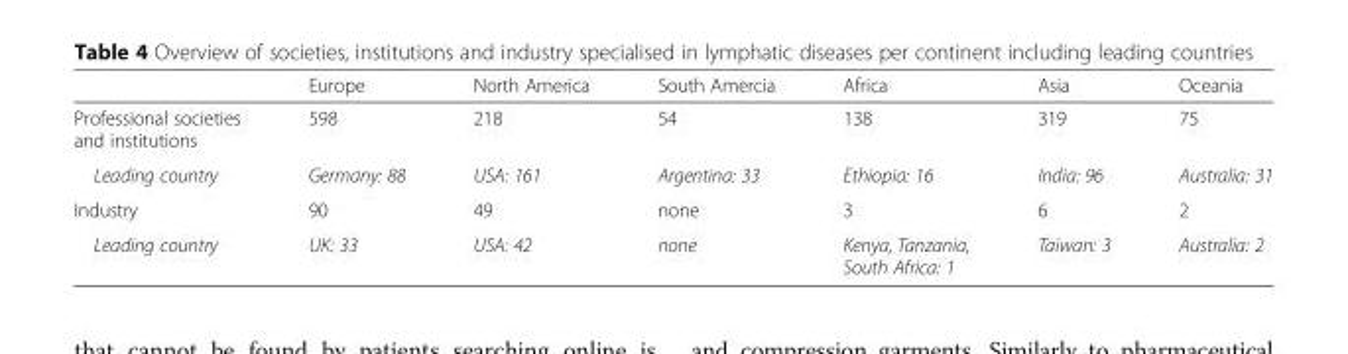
<table><thead><tr><td></td><td>Europe</td><td>North America</td><td>South Amercia</td><td>Africa</td><td>Asia</td><td>Oceania</td></tr></thead><tbody><tr><td>Professional societies and institutions</td><td>598</td><td>218</td><td>54</td><td>138</td><td>319</td><td>75</td></tr><tr><td>Leading country</td><td>Germany: 88</td><td>USA: 161</td><td>Argentina: 33</td><td>Ethiopia: 16</td><td>India: 96</td><td>Australia: 31</td></tr><tr><td>Industry</td><td>90</td><td>49</td><td>none</td><td>3</td><td>6</td><td>2</td></tr><tr><td>Leading country</td><td>UK: 33</td><td>USA: 42</td><td>none</td><td>Kenya, Tanzania, South Africa: 1</td><td>Taiwan: 3</td><td>Australia: 2</td></tr></tbody></table>